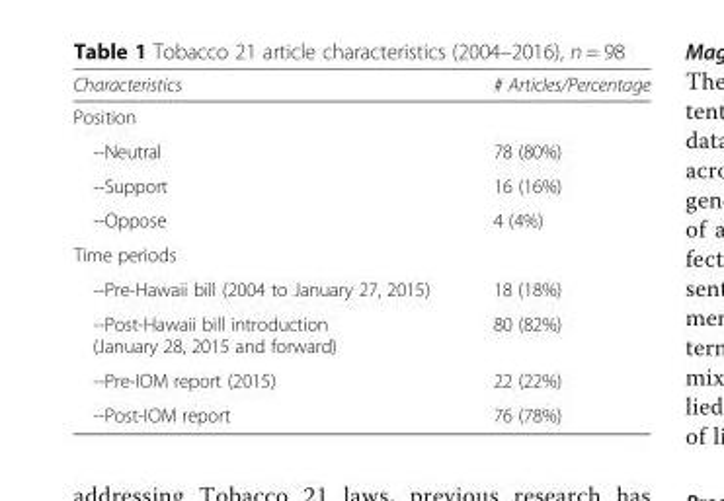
<table><thead><tr><td>Characteristics</td><td># Articles/Percentage</td></tr></thead><tbody><tr><td colspan="2">Position</td></tr><tr><td>--Neutral</td><td>78 (80%)</td></tr><tr><td>--Support</td><td>16 (16%)</td></tr><tr><td>--Oppose</td><td>4 (4%)</td></tr><tr><td colspan="2">Time periods</td></tr><tr><td>--Pre-Hawaii bill (2004 to January 27, 2015)</td><td>18 (18%)</td></tr><tr><td>--Post-Hawaii bill introduction (January 28, 2015 and forward)</td><td>80 (82%)</td></tr><tr><td>--Pre-IOM report (2015)</td><td>22 (22%)</td></tr><tr><td>--Post-IOM report</td><td>76 (78%)</td></tr></tbody></table>